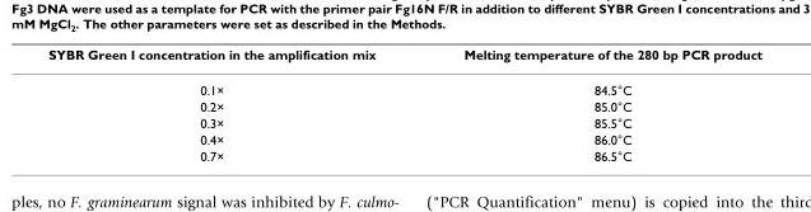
<table><thead><tr><td>SYBR Green I concentration in the amplification mix</td><td>Melting temperature of the 280 bp PCR product</td></tr></thead><tbody><tr><td>0.1×</td><td>84.5°C</td></tr><tr><td>0.2×</td><td>85.0°C</td></tr><tr><td>0.3×</td><td>85.5°C</td></tr><tr><td>0.4×</td><td>86.0°C</td></tr><tr><td>0.7×</td><td>86.5°C</td></tr></tbody></table>